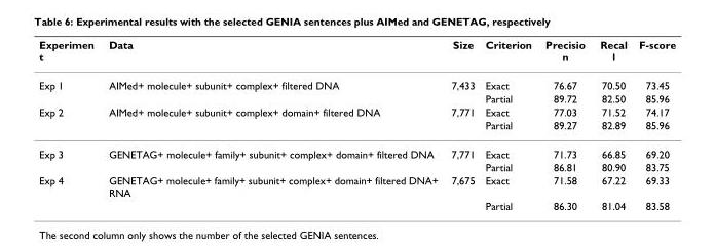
<table><thead><tr><td>Experimen t</td><td>Data</td><td>Size</td><td>Criterion</td><td>Precisio n</td><td>Recal l</td><td>F-score</td></tr></thead><tbody><tr><td rowspan="2">Exp 1</td><td>AIMed+ molecule+ subunit+ complex+ filtered DNA</td><td>7,433</td><td>Exact</td><td>76.67</td><td>70.50</td><td>73.45</td></tr><tr><td></td><td></td><td>Partial</td><td>89.72</td><td>82.50</td><td>85.96</td></tr><tr><td rowspan="2">Exp 2</td><td>AIMed+ molecule+ subunit+ complex+ domain+ filtered DNA</td><td>7,771</td><td>Exact</td><td>77.03</td><td>71.52</td><td>74.17</td></tr><tr><td></td><td></td><td>Partial</td><td>89.27</td><td>82.89</td><td>85.96</td></tr><tr><td rowspan="2">Exp 3</td><td>GENETAG+ molecule+ family+ subunit+ complex+ domain+ filtered DNA</td><td>7,771</td><td>Exact</td><td>71.73</td><td>66.85</td><td>69.20</td></tr><tr><td></td><td></td><td>Partial</td><td>86.81</td><td>80.90</td><td>83.75</td></tr><tr><td rowspan="2">Exp 4</td><td>GENETAG+ molecule+ family+ subunit+ complex+ domain+ filtered DNA+ RNA</td><td>7,675</td><td>Exact</td><td>71.58</td><td>67.22</td><td>69.33</td></tr><tr><td></td><td></td><td>Partial</td><td>86.30</td><td>81.04</td><td>83.58</td></tr></tbody></table>